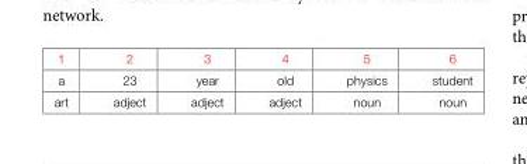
<table><tbody><tr><td>1</td><td>2</td><td>3</td><td>4</td><td>5</td><td>6</td></tr><tr><td>a</td><td>23</td><td>year</td><td>old</td><td>physics</td><td>student</td></tr><tr><td>art</td><td>adject</td><td>adject</td><td>adject</td><td>noun</td><td>noun</td></tr></tbody></table>